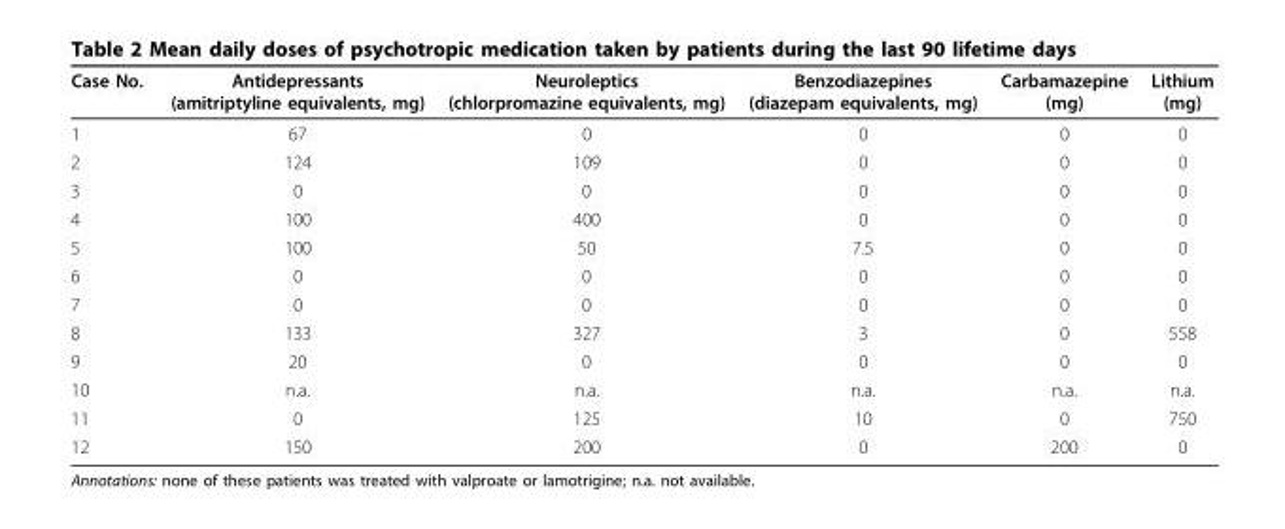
<table><thead><tr><td>Case No.</td><td>Antidepressants (amitriptyline equivalents, mg)</td><td>Neuroleptics (chlorpromazine equivalents, mg)</td><td>Benzodiazepines (diazepam equivalents, mg)</td><td>Carbamazepine (mg)</td><td>Lithium (mg)</td></tr></thead><tbody><tr><td>1</td><td>67</td><td>0</td><td>0</td><td>0</td><td>0</td></tr><tr><td>2</td><td>124</td><td>109</td><td>0</td><td>0</td><td>0</td></tr><tr><td>3</td><td>0</td><td>0</td><td>0</td><td>0</td><td>0</td></tr><tr><td>4</td><td>100</td><td>400</td><td>0</td><td>0</td><td>0</td></tr><tr><td>5</td><td>100</td><td>50</td><td>7.5</td><td>0</td><td>0</td></tr><tr><td>6</td><td>0</td><td>0</td><td>0</td><td>0</td><td>0</td></tr><tr><td>7</td><td>0</td><td>0</td><td>0</td><td>0</td><td>0</td></tr><tr><td>8</td><td>133</td><td>327</td><td>3</td><td>0</td><td>558</td></tr><tr><td>9</td><td>20</td><td>0</td><td>0</td><td>0</td><td>0</td></tr><tr><td>10</td><td>n.a.</td><td>n.a.</td><td>n.a.</td><td>n.a.</td><td>n.a.</td></tr><tr><td>11</td><td>0</td><td>125</td><td>10</td><td>0</td><td>750</td></tr><tr><td>12</td><td>150</td><td>200</td><td>0</td><td>200</td><td>0</td></tr></tbody></table>